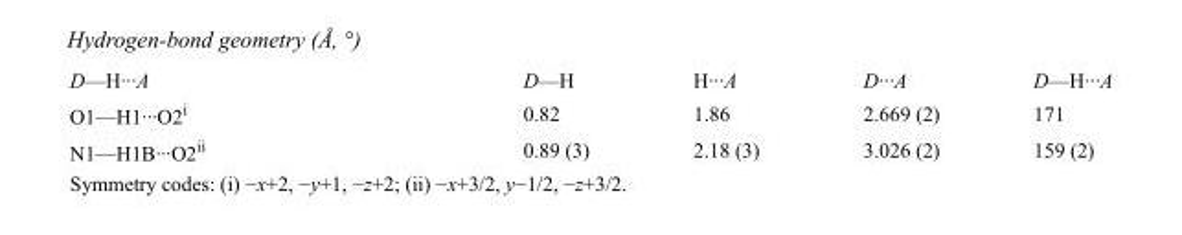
<table><tbody><tr><td>D—H···A</td><td>D—H</td><td>H···A</td><td>D···A</td><td>D—H···A</td></tr><tr><td>O1—H1···O2<sup>i</sup></td><td>0.82</td><td>1.86</td><td>2.669 (2)</td><td>171</td></tr><tr><td>N1—H1B···O2<sup>ii</sup></td><td>0.89 (3)</td><td>2.18 (3)</td><td>3.026 (2)</td><td>159 (2)</td></tr></tbody></table>